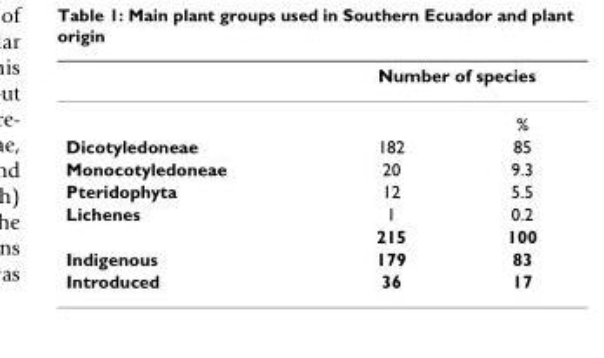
<table><thead><tr><td rowspan="2"></td><td colspan="2">Number of species</td></tr><tr><td></td><td>%</td></tr></thead><tbody><tr><td>Dicotyledoneae</td><td>182</td><td>85</td></tr><tr><td>Monocotyledoneae</td><td>20</td><td>9.3</td></tr><tr><td>Pteridophyta</td><td>12</td><td>5.5</td></tr><tr><td rowspan="2">Lichenes</td><td>1</td><td>0.2</td></tr><tr><td>215</td><td>100</td></tr><tr><td>Indigenous</td><td>179</td><td>83</td></tr><tr><td>Introduced</td><td>36</td><td>17</td></tr></tbody></table>